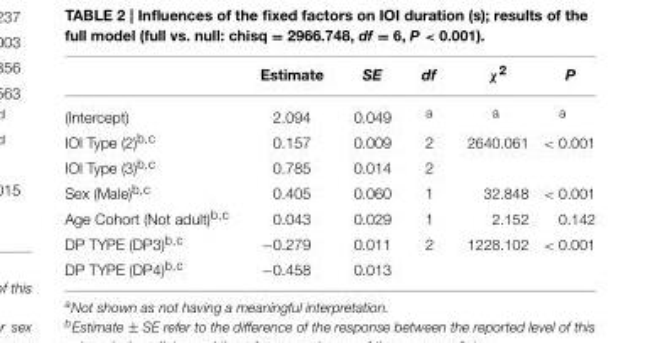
<table><thead><tr><td></td><td>Estimate</td><td>SE</td><td>df</td><td>χ<sup>2</sup></td><td>P</td></tr></thead><tbody><tr><td>(Intercept)</td><td>2.094</td><td>0.049</td><td><sup>a</sup></td><td><sup>a</sup></td><td><sup>a</sup></td></tr><tr><td>IOI Type (2)<sup>b,c</sup></td><td>0.157</td><td>0.009</td><td>2</td><td>2640.061</td><td>&lt; 0.001</td></tr><tr><td>IOI Type (3)<sup>b,c</sup></td><td>0.785</td><td>0.014</td><td>2</td><td></td><td></td></tr><tr><td>Sex (Male)<sup>b,c</sup></td><td>0.405</td><td>0.060</td><td>1</td><td>32.848</td><td>&lt; 0.001</td></tr><tr><td>Age Cohort (Not adult)<sup>b,c</sup></td><td>0.043</td><td>0.029</td><td>1</td><td>2.152</td><td>0.142</td></tr><tr><td>DP TYPE (DP3)<sup>b,c</sup></td><td>−0.279</td><td>0.011</td><td>2</td><td>1228.102</td><td>&lt; 0.001</td></tr><tr><td>DP TYPE (DP4)<sup>b,c</sup></td><td>−0.458</td><td>0.013</td><td></td><td></td><td></td></tr></tbody></table>